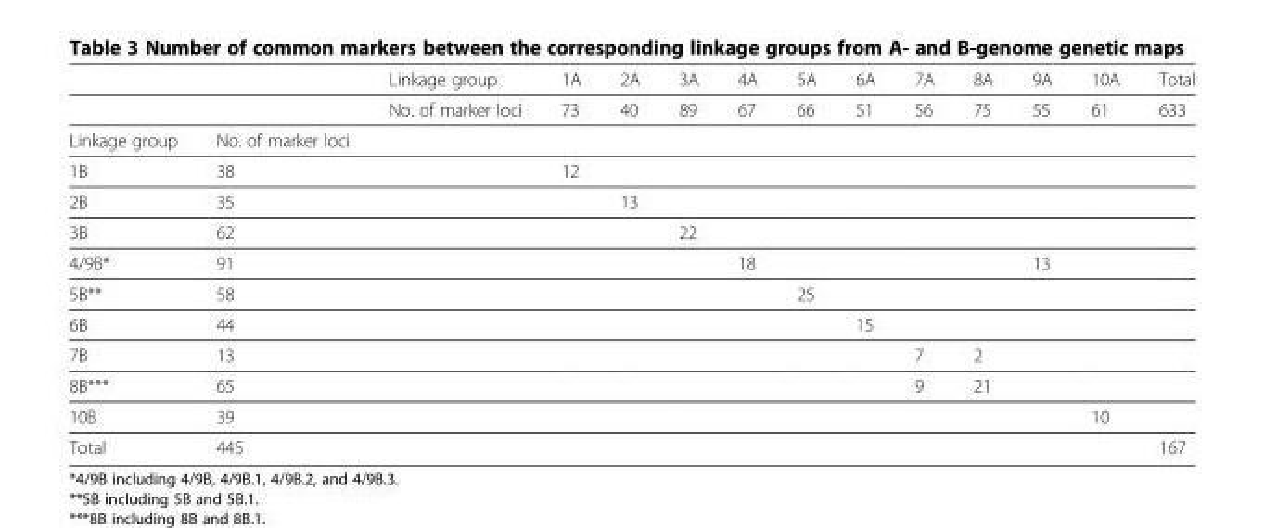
<table><thead><tr><td></td><td></td><td>Linkage group</td><td>1A</td><td>2A</td><td>3A</td><td>4A</td><td>5A</td><td>6A</td><td>7A</td><td>8A</td><td>9A</td><td>10A</td><td>Total</td></tr></thead><tbody><tr><td></td><td></td><td>No. of marker loci</td><td>73</td><td>40</td><td>89</td><td>67</td><td>66</td><td>51</td><td>56</td><td>75</td><td>55</td><td>61</td><td>633</td></tr><tr><td>Linkage group</td><td>No. of marker loci</td><td></td><td></td><td></td><td></td><td></td><td></td><td></td><td></td><td></td><td></td><td></td><td></td></tr><tr><td>1B</td><td>38</td><td></td><td>12</td><td></td><td></td><td></td><td></td><td></td><td></td><td></td><td></td><td></td><td></td></tr><tr><td>2B</td><td>35</td><td></td><td></td><td>13</td><td></td><td></td><td></td><td></td><td></td><td></td><td></td><td></td><td></td></tr><tr><td>3B</td><td>62</td><td></td><td></td><td></td><td>22</td><td></td><td></td><td></td><td></td><td></td><td></td><td></td><td></td></tr><tr><td>4/9B*</td><td>91</td><td></td><td></td><td></td><td></td><td>18</td><td></td><td></td><td></td><td></td><td>13</td><td></td><td></td></tr><tr><td>5B**</td><td>58</td><td></td><td></td><td></td><td></td><td></td><td>25</td><td></td><td></td><td></td><td></td><td></td><td></td></tr><tr><td>6B</td><td>44</td><td></td><td></td><td></td><td></td><td></td><td></td><td>15</td><td></td><td></td><td></td><td></td><td></td></tr><tr><td>7B</td><td>13</td><td></td><td></td><td></td><td></td><td></td><td></td><td></td><td>7</td><td>2</td><td></td><td></td><td></td></tr><tr><td>8B***</td><td>65</td><td></td><td></td><td></td><td></td><td></td><td></td><td></td><td>9</td><td>21</td><td></td><td></td><td></td></tr><tr><td>10B</td><td>39</td><td></td><td></td><td></td><td></td><td></td><td></td><td></td><td></td><td></td><td></td><td>10</td><td></td></tr><tr><td>Total</td><td>445</td><td></td><td></td><td></td><td></td><td></td><td></td><td></td><td></td><td></td><td></td><td></td><td>167</td></tr></tbody></table>